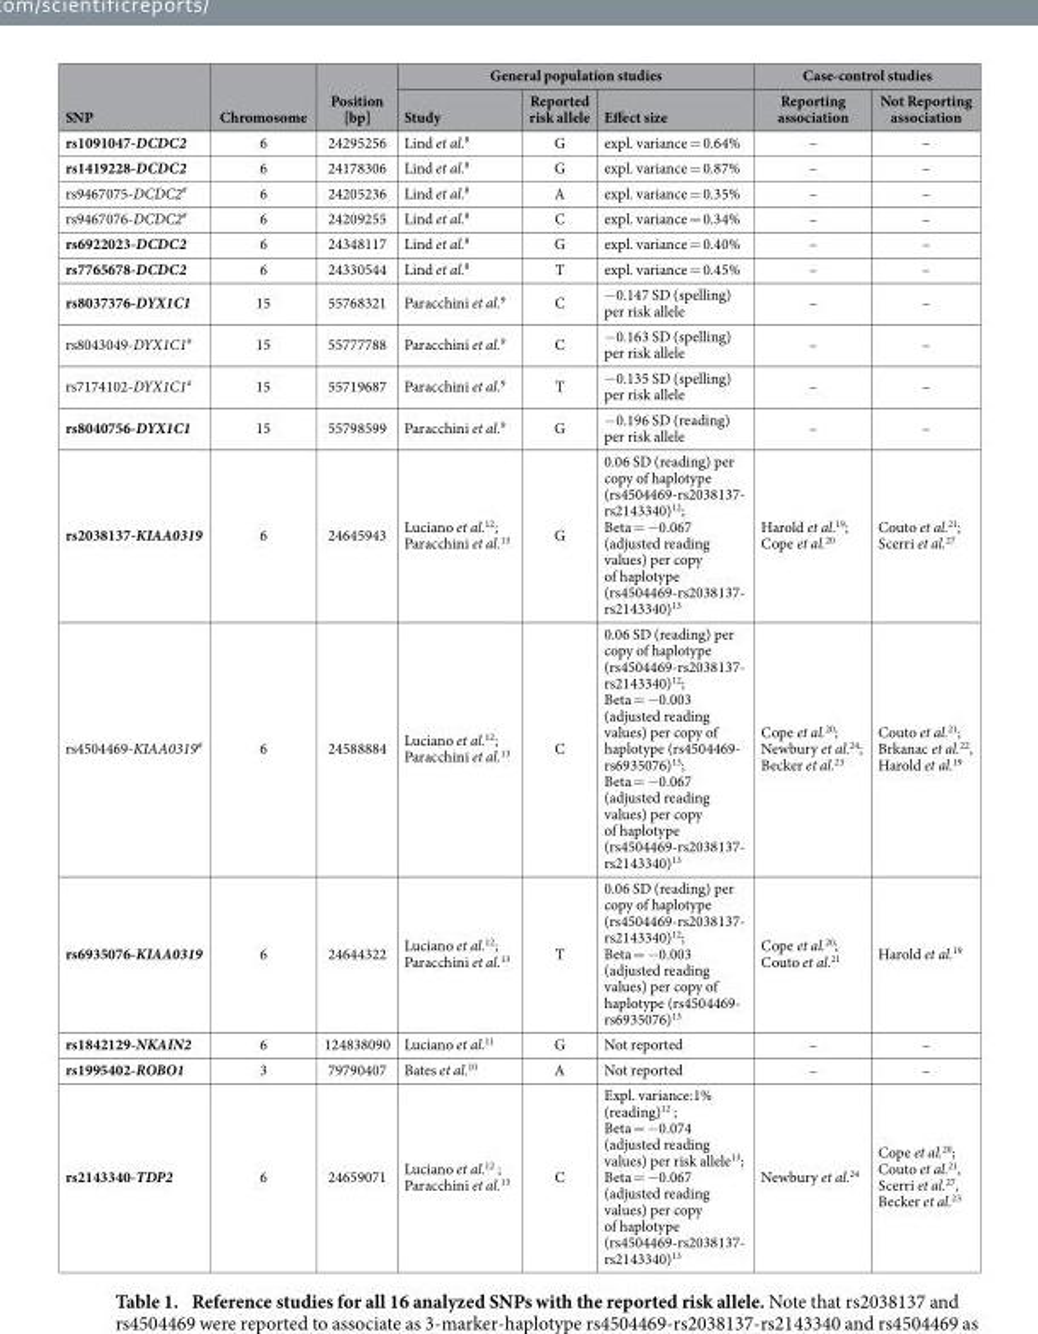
<table><thead><tr><td rowspan="2">SNP</td><td rowspan="2">Chromosome</td><td rowspan="2">Position [bp]</td><td colspan="3">General population studies</td><td colspan="2">Case-control studies</td></tr><tr><td>Study</td><td>Reported risk allele</td><td>Effect size</td><td>Reporting association</td><td>Not Reporting association</td></tr></thead><tbody><tr><td>rs1091047-DCDC2</td><td>6</td><td>24295256</td><td>Lind et al.<sup>8</sup></td><td>G</td><td>expl. variance = 0.64%</td><td>–</td><td>–</td></tr><tr><td>rs1419228-DCDC2</td><td>6</td><td>24178306</td><td>Lind et al.<sup>8</sup></td><td>G</td><td>expl. variance = 0.87%</td><td>–</td><td>–</td></tr><tr><td>rs9467075-DCDC2<sup>#</sup></td><td>6</td><td>24205236</td><td>Lind et al.<sup>8</sup></td><td>A</td><td>expl. variance = 0.35%</td><td>–</td><td>–</td></tr><tr><td>rs9467076-DCDC2<sup>#</sup></td><td>6</td><td>24209255</td><td>Lind et al.<sup>8</sup></td><td>C</td><td>expl. variance = 0.34%</td><td>–</td><td>–</td></tr><tr><td>rs6922023-DCDC2</td><td>6</td><td>24348117</td><td>Lind et al.<sup>8</sup></td><td>G</td><td>expl. variance = 0.40%</td><td>–</td><td>–</td></tr><tr><td>rs7765678-DCDC2</td><td>6</td><td>24330544</td><td>Lind et al.<sup>8</sup></td><td>T</td><td>expl. variance = 0.45%</td><td>–</td><td>–</td></tr><tr><td>rs8037376-DYX1C1</td><td>15</td><td>55768321</td><td>Paracchini et al.<sup>9</sup></td><td>C</td><td>− 0.147 SD (spelling) per risk allele</td><td>–</td><td>–</td></tr><tr><td>rs8043049-DYX1C1<sup>#</sup></td><td>15</td><td>55777788</td><td>Paracchini et al.<sup>9</sup></td><td>C</td><td>− 0.163 SD (spelling) per risk allele</td><td>–</td><td>–</td></tr><tr><td>rs7174102-DYX1C1<sup>#</sup></td><td>15</td><td>55719687</td><td>Paracchini et al.<sup>9</sup></td><td>T</td><td>− 0.135 SD (spelling) per risk allele</td><td>–</td><td>–</td></tr><tr><td>rs8040756-DYX1C1</td><td>15</td><td>55798599</td><td>Paracchini et al.<sup>9</sup></td><td>G</td><td>− 0.196 SD (reading) per risk allele</td><td>–</td><td>–</td></tr><tr><td>rs2038137-KIAA0319</td><td>6</td><td>24645943</td><td>Luciano et al.<sup>12</sup>; Paracchini et al.<sup>13</sup></td><td>G</td><td>0.06 SD (reading) per copy of haplotype (rs4504469-rs2038137- rs2143340)<sup>12</sup>; Beta = − 0.067 (adjusted reading values) per copy of haplotype (rs4504469-rs2038137- rs2143340)<sup>13</sup></td><td>Harold et al.<sup>19</sup>; Cope et al.<sup>20</sup></td><td>Couto et al.<sup>21</sup>; Scerri et al.<sup>27</sup></td></tr><tr><td>rs4504469-KIAA0319<sup>#</sup></td><td>6</td><td>24588884</td><td>Luciano et al.<sup>12</sup>; Paracchini et al.<sup>13</sup></td><td>C</td><td>0.06 SD (reading) per copy of haplotype (rs4504469-rs2038137- rs2143340)<sup>12</sup>; Beta = − 0.003 (adjusted reading values) per copy of haplotype (rs4504469- rs6935076)<sup>13</sup>; Beta = − 0.067 (adjusted reading values) per copy of haplotype (rs4504469-rs2038137- rs2143340)<sup>13</sup></td><td>Cope et al.<sup>20</sup>; Newbury et al.<sup>24</sup>; Becker et al.<sup>23</sup></td><td>Couto et al.<sup>21</sup>; Brkanac et al.<sup>22</sup>, Harold et al.<sup>19</sup></td></tr><tr><td>rs6935076-KIAA0319</td><td>6</td><td>24644322</td><td>Luciano et al.<sup>12</sup>; Paracchini et al.<sup>13</sup></td><td>T</td><td>0.06 SD (reading) per copy of haplotype (rs4504469-rs2038137- rs2143340)<sup>12</sup>; Beta = − 0.003 (adjusted reading values) per copy of haplotype (rs4504469- rs6935076)<sup>13</sup></td><td>Cope et al.<sup>20</sup>; Couto et al.<sup>21</sup></td><td>Harold et al.<sup>19</sup></td></tr><tr><td>rs1842129-NKAIN2</td><td>6</td><td>124838090</td><td>Luciano et al.<sup>11</sup></td><td>G</td><td>Not reported</td><td>–</td><td>–</td></tr><tr><td>rs1995402-ROBO1</td><td>3</td><td>79790407</td><td>Bates et al.<sup>10</sup></td><td>A</td><td>Not reported</td><td>–</td><td>–</td></tr><tr><td>rs2143340-TDP2</td><td>6</td><td>24659071</td><td>Luciano et al.<sup>12</sup> ; Paracchini et al.<sup>13</sup></td><td>C</td><td>Expl. variance:1% (reading)<sup>12</sup> ; Beta = − 0.074 (adjusted reading values) per risk allele<sup>13</sup>; Beta = − 0.067 (adjusted reading values) per copy of haplotype (rs4504469-rs2038137- rs2143340)<sup>13</sup></td><td>Newbury et al.<sup>24</sup></td><td>Cope et al.<sup>20</sup>; Couto et al.<sup>21</sup>, Scerri et al.<sup>27</sup>, Becker et al.<sup>23</sup></td></tr></tbody></table>